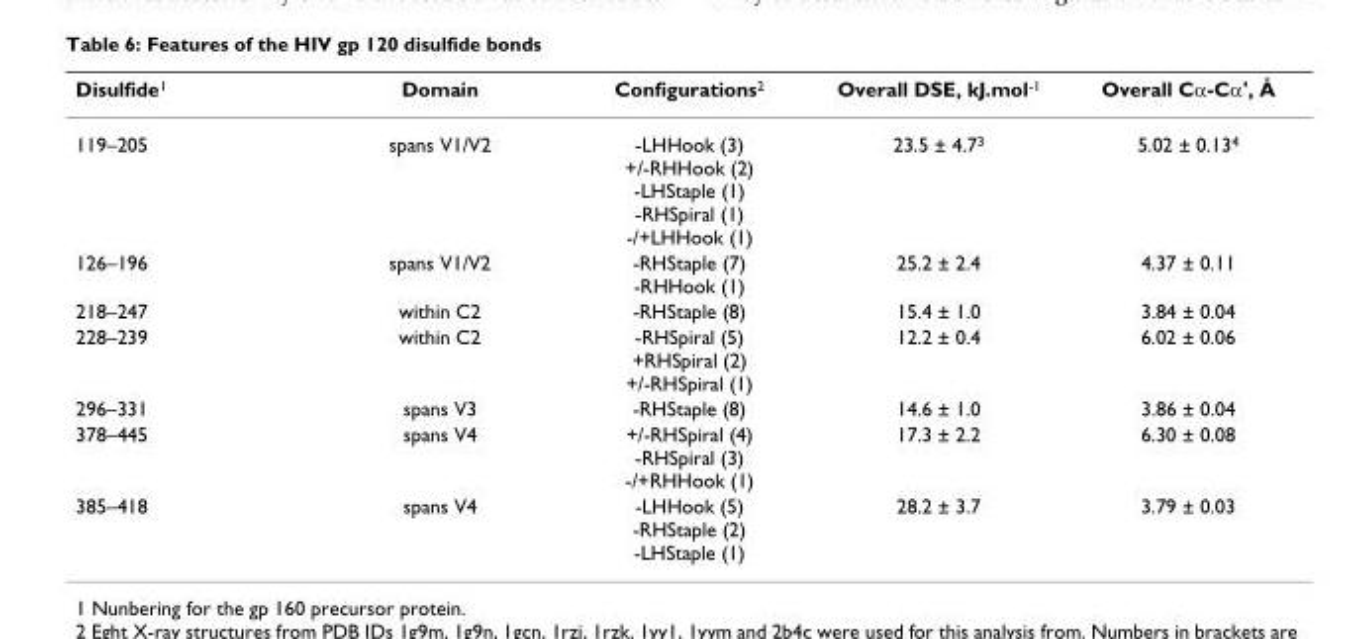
<table><thead><tr><td>Disulfide<sup>1</sup></td><td>Domain</td><td>Configurations<sup>2</sup></td><td>Overall DSE, kJ.mol<sup>-1</sup></td><td>Overall Cα-Cα&#x27;, Å</td></tr></thead><tbody><tr><td>119–205</td><td>spans V1/V2</td><td>-LHHook (3) +/-RHHook (2) -LHStaple (1) -RHSpiral (1) -/+LHHook (1)</td><td>23.5 ± 4.7<sup>3</sup></td><td>5.02 ± 0.13<sup>4</sup></td></tr><tr><td>126–196</td><td>spans V1/V2</td><td>-RHStaple (7) -RHHook (1)</td><td>25.2 ± 2.4</td><td>4.37 ± 0.11</td></tr><tr><td>218–247</td><td>within C2</td><td>-RHStaple (8)</td><td>15.4 ± 1.0</td><td>3.84 ± 0.04</td></tr><tr><td>228–239</td><td>within C2</td><td>-RHSpiral (5) +RHSpiral (2) +/-RHSpiral (1)</td><td>12.2 ± 0.4</td><td>6.02 ± 0.06</td></tr><tr><td>296–331</td><td>spans V3</td><td>-RHStaple (8)</td><td>14.6 ± 1.0</td><td>3.86 ± 0.04</td></tr><tr><td>378–445</td><td>spans V4</td><td>+/-RHSpiral (4) -RHSpiral (3) -/+RHHook (1)</td><td>17.3 ± 2.2</td><td>6.30 ± 0.08</td></tr><tr><td>385–418</td><td>spans V4</td><td>-LHHook (5) -RHStaple (2) -LHStaple (1)</td><td>28.2 ± 3.7</td><td>3.79 ± 0.03</td></tr></tbody></table>